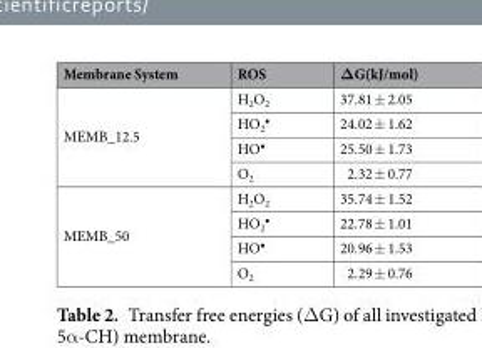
<table><thead><tr><td>Membrane System</td><td>ROS</td><td>ΔG(kJ/mol)</td></tr></thead><tbody><tr><td rowspan="4">MEMB_12.5</td><td>H<sub>2</sub>O<sub>2</sub></td><td>37.81 ± 2.05</td></tr><tr><td>HO<sub>2</sub> <sup>•</sup></td><td>24.02 ± 1.62</td></tr><tr><td>HO<sup>•</sup></td><td>25.50 ± 1.73</td></tr><tr><td>O<sub>2</sub></td><td>2.32 ± 0.77</td></tr><tr><td rowspan="4">MEMB_50</td><td>H<sub>2</sub>O<sub>2</sub></td><td>35.74 ± 1.52</td></tr><tr><td>HO<sub>2</sub> <sup>•</sup></td><td>22.78 ± 1.01</td></tr><tr><td>HO<sup>•</sup></td><td>20.96 ± 1.53</td></tr><tr><td>O<sub>2</sub></td><td>2.29 ± 0.76</td></tr></tbody></table>